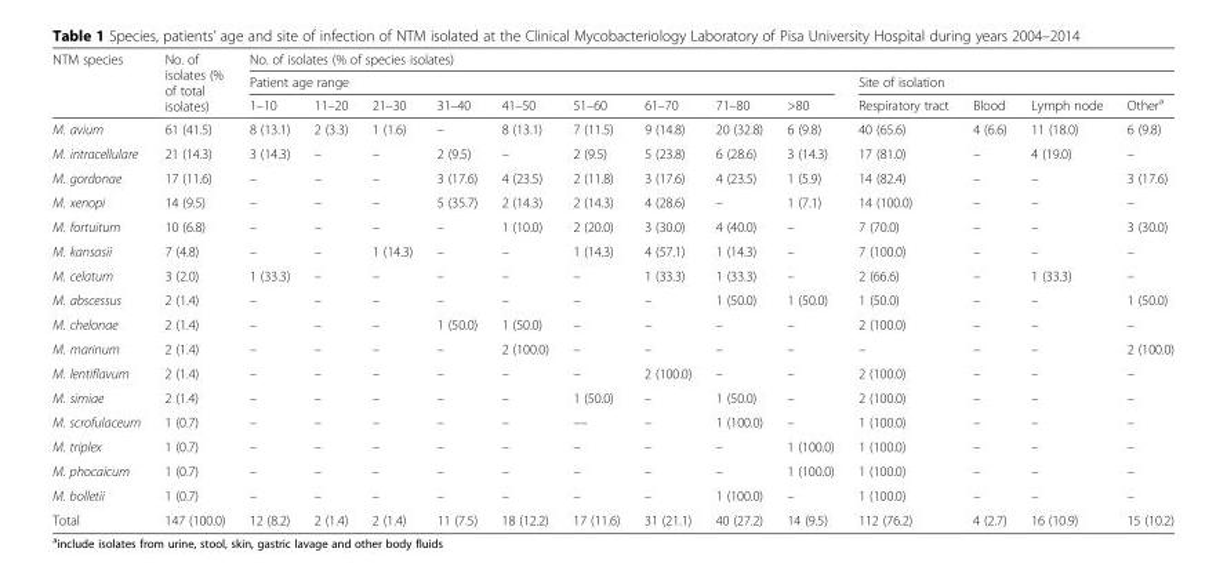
<table><thead><tr><td rowspan="3">NTM species</td><td rowspan="3">No. of isolates (% of total isolates)</td><td colspan="13">No. of isolates (% of species isolates)</td></tr><tr><td colspan="9">Patient age range</td><td colspan="4">Site of isolation</td></tr><tr><td>1–10</td><td>11–20</td><td>21–30</td><td>31–40</td><td>41–50</td><td>51–60</td><td>61–70</td><td>71–80</td><td>&gt;80</td><td>Respiratory tract</td><td>Blood</td><td>Lymph node</td><td>Other<sup>a</sup></td></tr></thead><tbody><tr><td>M. avium</td><td>61 (41.5)</td><td>8 (13.1)</td><td>2 (3.3)</td><td>1 (1.6)</td><td>–</td><td>8 (13.1)</td><td>7 (11.5)</td><td>9 (14.8)</td><td>20 (32.8)</td><td>6 (9.8)</td><td>40 (65.6)</td><td>4 (6.6)</td><td>11 (18.0)</td><td>6 (9.8)</td></tr><tr><td>M. intracellulare</td><td>21 (14.3)</td><td>3 (14.3)</td><td>–</td><td>–</td><td>2 (9.5)</td><td>–</td><td>2 (9.5)</td><td>5 (23.8)</td><td>6 (28.6)</td><td>3 (14.3)</td><td>17 (81.0)</td><td>–</td><td>4 (19.0)</td><td>–</td></tr><tr><td>M. gordonae</td><td>17 (11.6)</td><td>–</td><td>–</td><td>–</td><td>3 (17.6)</td><td>4 (23.5)</td><td>2 (11.8)</td><td>3 (17.6)</td><td>4 (23.5)</td><td>1 (5.9)</td><td>14 (82.4)</td><td>–</td><td>–</td><td>3 (17.6)</td></tr><tr><td>M. xenopi</td><td>14 (9.5)</td><td>–</td><td>–</td><td>–</td><td>5 (35.7)</td><td>2 (14.3)</td><td>2 (14.3)</td><td>4 (28.6)</td><td>–</td><td>1 (7.1)</td><td>14 (100.0)</td><td>–</td><td>–</td><td>–</td></tr><tr><td>M. fortuitum</td><td>10 (6.8)</td><td>–</td><td>–</td><td>–</td><td>–</td><td>1 (10.0)</td><td>2 (20.0)</td><td>3 (30.0)</td><td>4 (40.0)</td><td>–</td><td>7 (70.0)</td><td>–</td><td>–</td><td>3 (30.0)</td></tr><tr><td>M. kansasii</td><td>7 (4.8)</td><td>–</td><td>–</td><td>1 (14.3)</td><td>–</td><td>–</td><td>1 (14.3)</td><td>4 (57.1)</td><td>1 (14.3)</td><td>–</td><td>7 (100.0)</td><td>–</td><td>–</td><td>–</td></tr><tr><td>M. celatum</td><td>3 (2.0)</td><td>1 (33.3)</td><td>–</td><td>–</td><td>–</td><td>–</td><td>–</td><td>1 (33.3)</td><td>1 (33.3)</td><td>–</td><td>2 (66.6)</td><td>–</td><td>1 (33.3)</td><td>–</td></tr><tr><td>M. abscessus</td><td>2 (1.4)</td><td>–</td><td>–</td><td>–</td><td>–</td><td>–</td><td>–</td><td>–</td><td>1 (50.0)</td><td>1 (50.0)</td><td>1 (50.0)</td><td>–</td><td>–</td><td>1 (50.0)</td></tr><tr><td>M. chelonae</td><td>2 (1.4)</td><td>–</td><td>–</td><td>–</td><td>1 (50.0)</td><td>1 (50.0)</td><td>–</td><td>–</td><td>–</td><td>–</td><td>2 (100.0)</td><td>–</td><td>–</td><td>–</td></tr><tr><td>M. marinum</td><td>2 (1.4)</td><td>–</td><td>–</td><td>–</td><td>–</td><td>2 (100.0)</td><td>–</td><td>–</td><td>–</td><td>–</td><td>–</td><td>–</td><td>–</td><td>2 (100.0)</td></tr><tr><td>M. lentiflavum</td><td>2 (1.4)</td><td>–</td><td>–</td><td>–</td><td>–</td><td>–</td><td>–</td><td>2 (100.0)</td><td>–</td><td>–</td><td>2 (100.0)</td><td>–</td><td>–</td><td>–</td></tr><tr><td>M. simiae</td><td>2 (1.4)</td><td>–</td><td>–</td><td>–</td><td>–</td><td>–</td><td>1 (50.0)</td><td>–</td><td>1 (50.0)</td><td>–</td><td>2 (100.0)</td><td>–</td><td>–</td><td>–</td></tr><tr><td>M. scrofulaceum</td><td>1 (0.7)</td><td>–</td><td>–</td><td>–</td><td>–</td><td>–</td><td>––</td><td>–</td><td>1 (100.0)</td><td>–</td><td>1 (100.0)</td><td>–</td><td>–</td><td>–</td></tr><tr><td>M. triplex</td><td>1 (0.7)</td><td>–</td><td>–</td><td>–</td><td>–</td><td>–</td><td>–</td><td>–</td><td>–</td><td>1 (100.0)</td><td>1 (100.0)</td><td>–</td><td>–</td><td>–</td></tr><tr><td>M. phocaicum</td><td>1 (0.7)</td><td>–</td><td>–</td><td>–</td><td>–</td><td>–</td><td>–</td><td>–</td><td>–</td><td>1 (100.0)</td><td>1 (100.0)</td><td>–</td><td>–</td><td>–</td></tr><tr><td>M. bolletii</td><td>1 (0.7)</td><td>–</td><td>–</td><td>–</td><td>–</td><td>–</td><td>–</td><td>–</td><td>1 (100.0)</td><td>–</td><td>1 (100.0)</td><td>–</td><td>–</td><td>–</td></tr><tr><td>Total</td><td>147 (100.0)</td><td>12 (8.2)</td><td>2 (1.4)</td><td>2 (1.4)</td><td>11 (7.5)</td><td>18 (12.2)</td><td>17 (11.6)</td><td>31 (21.1)</td><td>40 (27.2)</td><td>14 (9.5)</td><td>112 (76.2)</td><td>4 (2.7)</td><td>16 (10.9)</td><td>15 (10.2)</td></tr></tbody></table>